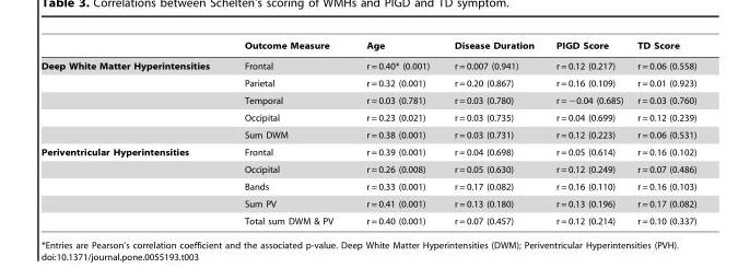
<table><thead><tr><td></td><td>Outcome Measure</td><td>Age</td><td>Disease Duration</td><td>PIGD Score</td><td>TD Score</td></tr></thead><tbody><tr><td rowspan="5">Deep White Matter Hyperintensities</td><td>Frontal</td><td>r = 0.40* (0.001)</td><td>r = 0.007 (0.941)</td><td>r = 0.12 (0.217)</td><td>r = 0.06 (0.558)</td></tr><tr><td>Parietal</td><td>r = 0.32 (0.001)</td><td>r = 0.20 (0.867)</td><td>r = 0.16 (0.109)</td><td>r = 0.01 (0.923)</td></tr><tr><td>Temporal</td><td>r = 0.03 (0.781)</td><td>r = 0.03 (0.780)</td><td>r = −0.04 (0.685)</td><td>r = 0.03 (0.760)</td></tr><tr><td>Occipital</td><td>r = 0.23 (0.021)</td><td>r = 0.03 (0.735)</td><td>r = 0.04 (0.699)</td><td>r = 0.12 (0.239)</td></tr><tr><td>Sum DWM</td><td>r = 0.38 (0.001)</td><td>r = 0.03 (0.731)</td><td>r = 0.12 (0.223)</td><td>r = 0.06 (0.531)</td></tr><tr><td rowspan="5">Periventricular Hyperintensities</td><td>Frontal</td><td>r = 0.39 (0.001)</td><td>r = 0.04 (0.698)</td><td>r = 0.05 (0.614)</td><td>r = 0.16 (0.102)</td></tr><tr><td>Occipital</td><td>r = 0.26 (0.008)</td><td>r = 0.05 (0.630)</td><td>r = 0.12 (0.249)</td><td>r = 0.07 (0.486)</td></tr><tr><td>Bands</td><td>r = 0.33 (0.001)</td><td>r = 0.17 (0.082)</td><td>r = 0.16 (0.110)</td><td>r = 0.16 (0.103)</td></tr><tr><td>Sum PV</td><td>r = 0.41 (0.001)</td><td>r = 0.13 (0.180)</td><td>r = 0.13 (0.196)</td><td>r = 0.17 (0.082)</td></tr><tr><td>Total sum DWM &amp; PV</td><td>r = 0.40 (0.001)</td><td>r = 0.07 (0.457)</td><td>r = 0.12 (0.214)</td><td>r = 0.10 (0.337)</td></tr></tbody></table>